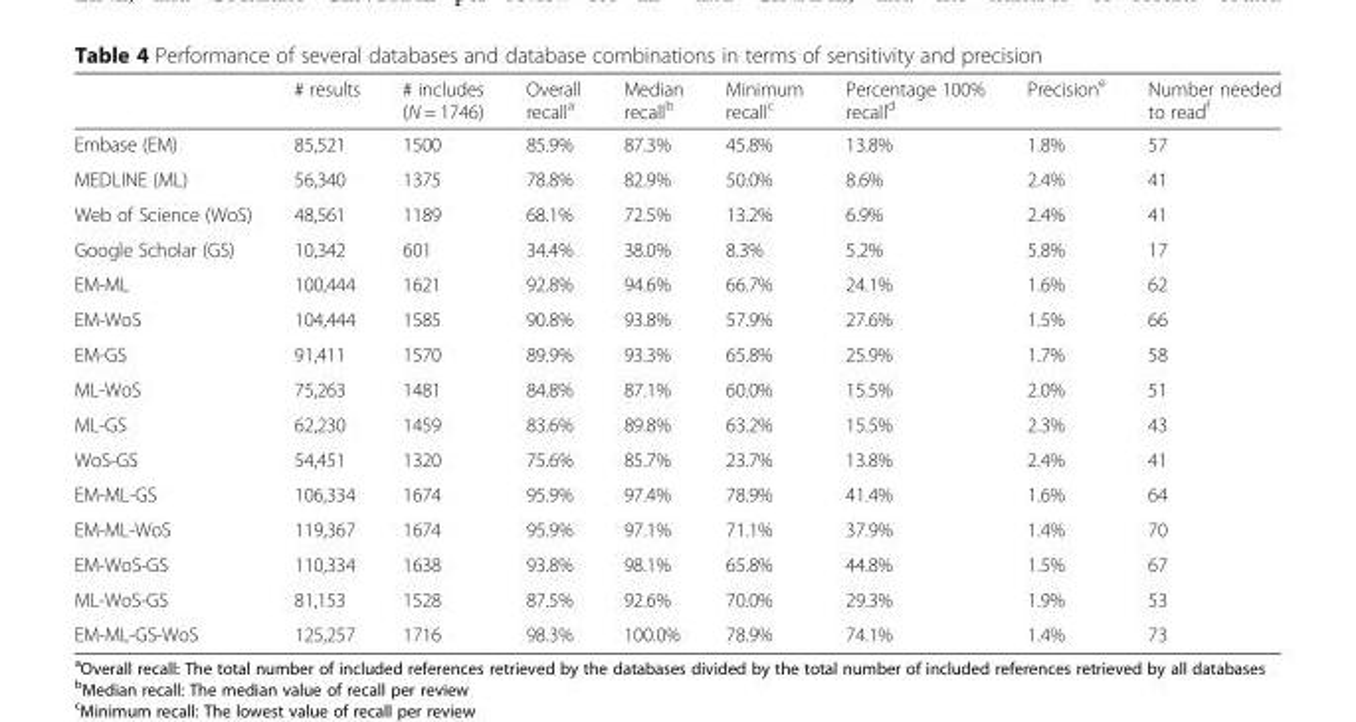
<table><thead><tr><td></td><td># results</td><td># includes (N = 1746)</td><td>Overall recall<sup>a</sup></td><td>Median recall<sup>b</sup></td><td>Minimum recall<sup>c</sup></td><td>Percentage 100% recall<sup>d</sup></td><td>Precision<sup>e</sup></td><td>Number needed to read<sup>f</sup></td></tr></thead><tbody><tr><td>Embase (EM)</td><td>85,521</td><td>1500</td><td>85.9%</td><td>87.3%</td><td>45.8%</td><td>13.8%</td><td>1.8%</td><td>57</td></tr><tr><td>MEDLINE (ML)</td><td>56,340</td><td>1375</td><td>78.8%</td><td>82.9%</td><td>50.0%</td><td>8.6%</td><td>2.4%</td><td>41</td></tr><tr><td>Web of Science (WoS)</td><td>48,561</td><td>1189</td><td>68.1%</td><td>72.5%</td><td>13.2%</td><td>6.9%</td><td>2.4%</td><td>41</td></tr><tr><td>Google Scholar (GS)</td><td>10,342</td><td>601</td><td>34.4%</td><td>38.0%</td><td>8.3%</td><td>5.2%</td><td>5.8%</td><td>17</td></tr><tr><td>EM-ML</td><td>100,444</td><td>1621</td><td>92.8%</td><td>94.6%</td><td>66.7%</td><td>24.1%</td><td>1.6%</td><td>62</td></tr><tr><td>EM-WoS</td><td>104,444</td><td>1585</td><td>90.8%</td><td>93.8%</td><td>57.9%</td><td>27.6%</td><td>1.5%</td><td>66</td></tr><tr><td>EM-GS</td><td>91,411</td><td>1570</td><td>89.9%</td><td>93.3%</td><td>65.8%</td><td>25.9%</td><td>1.7%</td><td>58</td></tr><tr><td>ML-WoS</td><td>75,263</td><td>1481</td><td>84.8%</td><td>87.1%</td><td>60.0%</td><td>15.5%</td><td>2.0%</td><td>51</td></tr><tr><td>ML-GS</td><td>62,230</td><td>1459</td><td>83.6%</td><td>89.8%</td><td>63.2%</td><td>15.5%</td><td>2.3%</td><td>43</td></tr><tr><td>WoS-GS</td><td>54,451</td><td>1320</td><td>75.6%</td><td>85.7%</td><td>23.7%</td><td>13.8%</td><td>2.4%</td><td>41</td></tr><tr><td>EM-ML-GS</td><td>106,334</td><td>1674</td><td>95.9%</td><td>97.4%</td><td>78.9%</td><td>41.4%</td><td>1.6%</td><td>64</td></tr><tr><td>EM-ML-WoS</td><td>119,367</td><td>1674</td><td>95.9%</td><td>97.1%</td><td>71.1%</td><td>37.9%</td><td>1.4%</td><td>70</td></tr><tr><td>EM-WoS-GS</td><td>110,334</td><td>1638</td><td>93.8%</td><td>98.1%</td><td>65.8%</td><td>44.8%</td><td>1.5%</td><td>67</td></tr><tr><td>ML-WoS-GS</td><td>81,153</td><td>1528</td><td>87.5%</td><td>92.6%</td><td>70.0%</td><td>29.3%</td><td>1.9%</td><td>53</td></tr><tr><td>EM-ML-GS-WoS</td><td>125,257</td><td>1716</td><td>98.3%</td><td>100.0%</td><td>78.9%</td><td>74.1%</td><td>1.4%</td><td>73</td></tr></tbody></table>